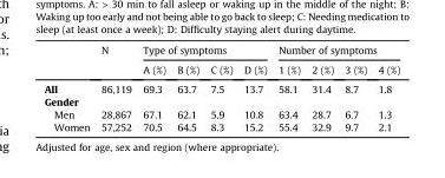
<table><thead><tr><td rowspan="2"></td><td rowspan="2">N</td><td colspan="4">Type of symptoms</td><td colspan="4">Number of symptoms</td></tr><tr><td>A (%)</td><td>B (%)</td><td>C (%)</td><td>D (%)</td><td>1 (%)</td><td>2 (%)</td><td>3 (%)</td><td>4 (%)</td></tr></thead><tbody><tr><td>All</td><td>86,119</td><td>69.3</td><td>63.7</td><td>7.5</td><td>13.7</td><td>58.1</td><td>31.4</td><td>8.7</td><td>1.8</td></tr><tr><td colspan="10">Gender</td></tr><tr><td>Men</td><td>28,867</td><td>67.1</td><td>62.1</td><td>5.9</td><td>10.8</td><td>63.4</td><td>28.7</td><td>6.7</td><td>1.3</td></tr><tr><td>Women</td><td>57,252</td><td>70.5</td><td>64.5</td><td>8.3</td><td>15.2</td><td>55.4</td><td>32.9</td><td>9.7</td><td>2.1</td></tr></tbody></table>